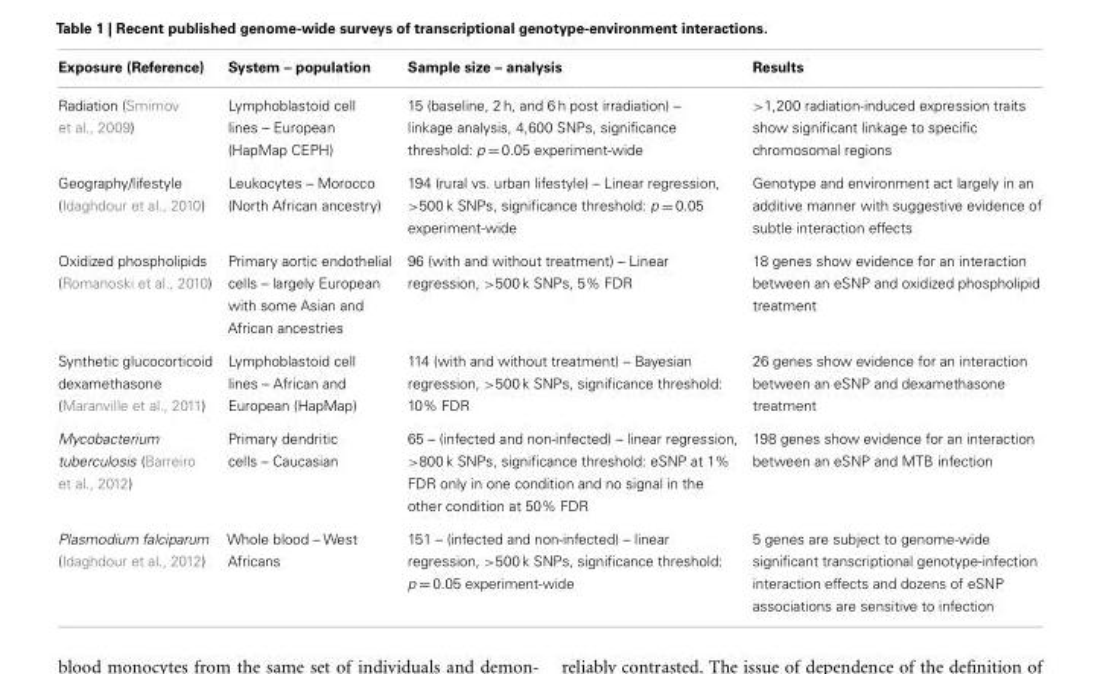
<table><thead><tr><td>Exposure (Reference)</td><td>System – population</td><td>Sample size – analysis</td><td>Results</td></tr></thead><tbody><tr><td>Radiation (Smirnov et al., 2009)</td><td>Lymphoblastoid cell lines – European (HapMap CEPH)</td><td>15 (baseline, 2 h, and 6 h post irradiation) – linkage analysis, 4,600 SNPs, significance threshold: p = 0.05 experiment-wide</td><td>&gt;1,200 radiation-induced expression traits show significant linkage to specific chromosomal regions</td></tr><tr><td>Geography/lifestyle (Idaghdour et al., 2010)</td><td>Leukocytes – Morocco (North African ancestry)</td><td>194 (rural vs. urban lifestyle) – Linear regression, &gt;500 k SNPs, significance threshold: p = 0.05 experiment-wide</td><td>Genotype and environment act largely in an additive manner with suggestive evidence of subtle interaction effects</td></tr><tr><td>Oxidized phospholipids (Romanoski et al., 2010)</td><td>Primary aortic endothelial cells – largely European with some Asian and African ancestries</td><td>96 (with and without treatment) – Linear regression, &gt;500 k SNPs, 5% FDR</td><td>18 genes show evidence for an interaction between an eSNP and oxidized phospholipid treatment</td></tr><tr><td>Synthetic glucocorticoid dexamethasone (Maranville et al., 2011)</td><td>Lymphoblastoid cell lines – African and European (HapMap)</td><td>114 (with and without treatment) – Bayesian regression, &gt;500 k SNPs, significance threshold: 10% FDR</td><td>26 genes show evidence for an interaction between an eSNP and dexamethasone treatment</td></tr><tr><td>Mycobacterium tuberculosis (Barreiro et al., 2012)</td><td>Primary dendritic cells – Caucasian</td><td>65 – (infected and non-infected) – linear regression, &gt;800 k SNPs, significance threshold: eSNP at 1% FDR only in one condition and no signal in the other condition at 50% FDR</td><td>198 genes show evidence for an interaction between an eSNP and MTB infection</td></tr><tr><td>Plasmodium falciparum (Idaghdour et al., 2012)</td><td>Whole blood – West Africans</td><td>151 – (infected and non-infected) – linear regression, &gt;500 k SNPs, significance threshold: p = 0.05 experiment-wide</td><td>5 genes are subject to genome-wide significant transcriptional genotype-infection interaction effects and dozens of eSNP associations are sensitive to infection</td></tr></tbody></table>